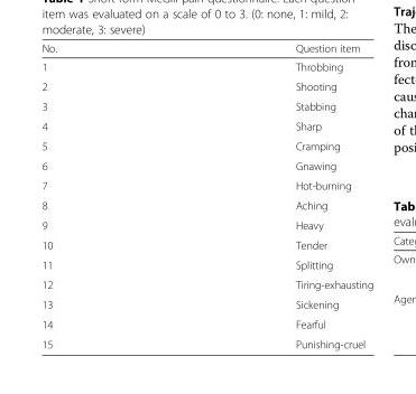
<table><thead><tr><td>No.</td><td>Question item</td></tr></thead><tbody><tr><td>1</td><td>Throbbing</td></tr><tr><td>2</td><td>Shooting</td></tr><tr><td>3</td><td>Stabbing</td></tr><tr><td>4</td><td>Sharp</td></tr><tr><td>5</td><td>Cramping</td></tr><tr><td>6</td><td>Gnawing</td></tr><tr><td>7</td><td>Hot-burning</td></tr><tr><td>8</td><td>Aching</td></tr><tr><td>9</td><td>Heavy</td></tr><tr><td>10</td><td>Tender</td></tr><tr><td>11</td><td>Splitting</td></tr><tr><td>12</td><td>Tiring-exhausting</td></tr><tr><td>13</td><td>Sickening</td></tr><tr><td>14</td><td>Fearful</td></tr><tr><td>15</td><td>Punishing-cruel</td></tr></tbody></table>